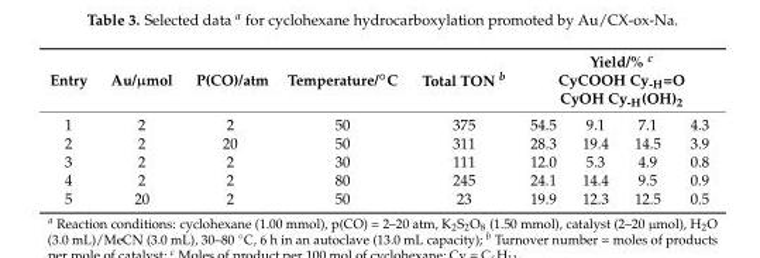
<table><thead><tr><td rowspan="2">Entry 1</td><td rowspan="2">Au/µmol 2</td><td rowspan="2">P(CO)/atm 2</td><td rowspan="2">Temperature/◦C 50</td><td rowspan="2">Total TON b 375</td><td colspan="4">Yield/% c CyCOOH Cy-H=O CyOH Cy-H(OH)2</td></tr><tr><td>54.5</td><td>9.1</td><td>7.1</td><td>4.3</td></tr></thead><tbody><tr><td>2</td><td>2</td><td>20</td><td>50</td><td>311</td><td>28.3</td><td>19.4</td><td>14.5</td><td>3.9</td></tr><tr><td>3</td><td>2</td><td>2</td><td>30</td><td>111</td><td>12.0</td><td>5.3</td><td>4.9</td><td>0.8</td></tr><tr><td>4</td><td>2</td><td>2</td><td>80</td><td>245</td><td>24.1</td><td>14.4</td><td>9.5</td><td>0.9</td></tr><tr><td>5</td><td>20</td><td>2</td><td>50</td><td>23</td><td>19.9</td><td>12.3</td><td>12.5</td><td>0.5</td></tr></tbody></table>